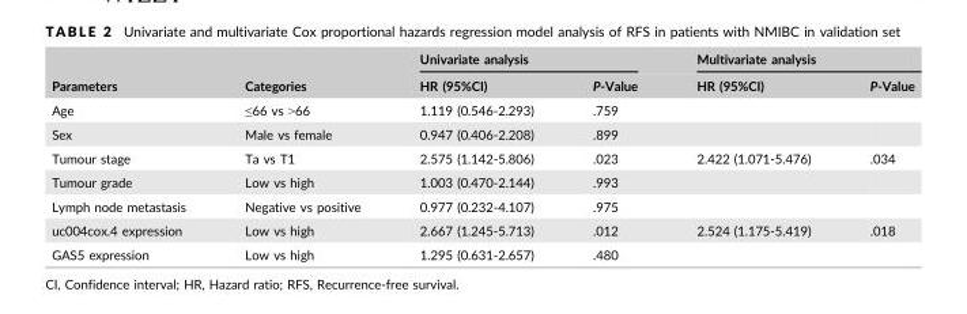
<table><thead><tr><td rowspan="2">Parameters</td><td rowspan="2">Categories</td><td colspan="2">Univariate analysis</td><td colspan="2">Multivariate analysis</td></tr><tr><td>HR (95%CI)</td><td>P-Value</td><td>HR (95%CI)</td><td>P-Value</td></tr></thead><tbody><tr><td>Age</td><td>≤66 vs &gt;66</td><td>1.119 (0.546-2.293)</td><td>.759</td><td></td><td></td></tr><tr><td>Sex</td><td>Male vs female</td><td>0.947 (0.406-2.208)</td><td>.899</td><td></td><td></td></tr><tr><td>Tumour stage</td><td>Ta vs T1</td><td>2.575 (1.142-5.806)</td><td>.023</td><td>2.422 (1.071-5.476)</td><td>.034</td></tr><tr><td>Tumour grade</td><td>Low vs high</td><td>1.003 (0.470-2.144)</td><td>.993</td><td></td><td></td></tr><tr><td>Lymph node metastasis</td><td>Negative vs positive</td><td>0.977 (0.232-4.107)</td><td>.975</td><td></td><td></td></tr><tr><td>uc004cox.4 expression</td><td>Low vs high</td><td>2.667 (1.245-5.713)</td><td>.012</td><td>2.524 (1.175-5.419)</td><td>.018</td></tr><tr><td>GAS5 expression</td><td>Low vs high</td><td>1.295 (0.631-2.657)</td><td>.480</td><td></td><td></td></tr></tbody></table>